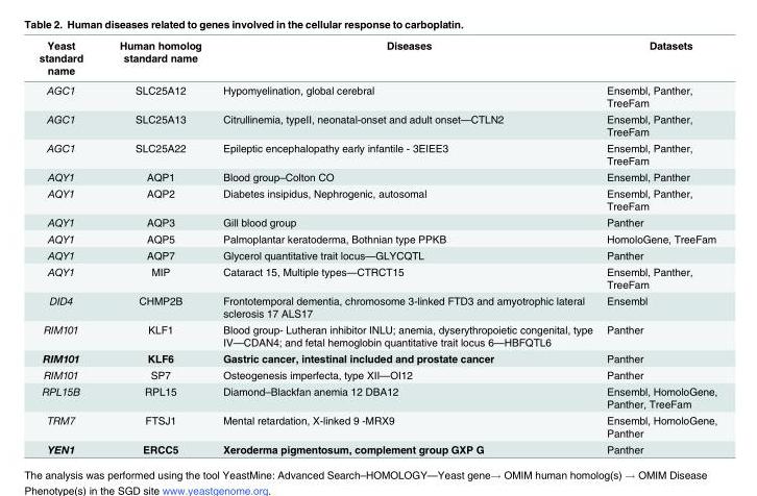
<table><thead><tr><td>Yeast standard name</td><td>Human homolog standard name</td><td>Diseases</td><td>Datasets</td></tr></thead><tbody><tr><td>AGC1</td><td>SLC25A12</td><td>Hypomyelination, global cerebral</td><td>Ensembl, Panther, TreeFam</td></tr><tr><td>AGC1</td><td>SLC25A13</td><td>Citrullinemia, typeII, neonatal-onset and adult onset—CTLN2</td><td>Ensembl, Panther, TreeFam</td></tr><tr><td>AGC1</td><td>SLC25A22</td><td>Epileptic encephalopathy early infantile - 3EIEE3</td><td>Ensembl, Panther, TreeFam</td></tr><tr><td>AQY1</td><td>AQP1</td><td>Blood group–Colton CO</td><td>Ensembl, Panther</td></tr><tr><td>AQY1</td><td>AQP2</td><td>Diabetes insipidus, Nephrogenic, autosomal</td><td>Ensembl, Panther, TreeFam</td></tr><tr><td>AQY1</td><td>AQP3</td><td>Gill blood group</td><td>Panther</td></tr><tr><td>AQY1</td><td>AQP5</td><td>Palmoplantar keratoderma, Bothnian type PPKB</td><td>HomoloGene, TreeFam</td></tr><tr><td>AQY1</td><td>AQP7</td><td>Glycerol quantitative trait locus—GLYCQTL</td><td>Panther</td></tr><tr><td>AQY1</td><td>MIP</td><td>Cataract 15, Multiple types—CTRCT15</td><td>Ensembl, Panther, TreeFam</td></tr><tr><td>DID4</td><td>CHMP2B</td><td>Frontotemporal dementia, chromosome 3-linked FTD3 and amyotrophic lateral sclerosis 17 ALS17</td><td>Ensembl</td></tr><tr><td>RIM101</td><td>KLF1</td><td>Blood group- Lutheran inhibitor INLU; anemia, dyserythropoietic congenital, type IV—CDAN4; and fetal hemoglobin quantitative trait locus 6—HBFQTL6</td><td>Panther</td></tr><tr><td>RIM101</td><td>KLF6</td><td>Gastric cancer, intestinal included and prostate cancer</td><td>Panther</td></tr><tr><td>RIM101</td><td>SP7</td><td>Osteogenesis imperfecta, type XII—OI12</td><td>Panther</td></tr><tr><td>RPL15B</td><td>RPL15</td><td>Diamond–Blackfan anemia 12 DBA12</td><td>Ensembl, HomoloGene, Panther, TreeFam</td></tr><tr><td>TRM7</td><td>FTSJ1</td><td>Mental retardation, X-linked 9 -MRX9</td><td>Ensembl, HomoloGene, Panther</td></tr><tr><td>YEN1</td><td>ERCC5</td><td>Xeroderma pigmentosum, complement group GXP G</td><td>Panther</td></tr></tbody></table>